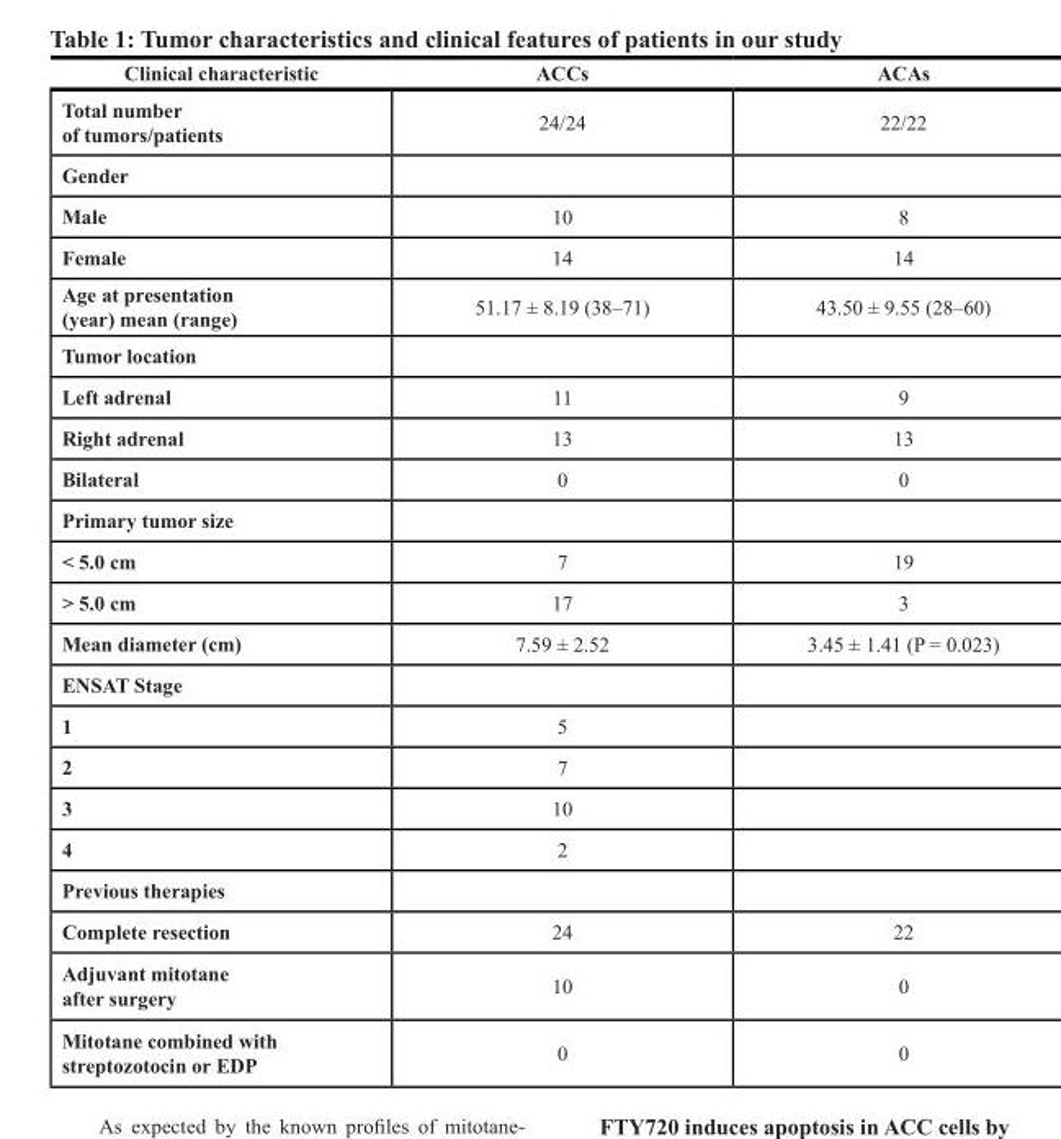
<table><thead><tr><td>Clinical characteristic</td><td>ACCs</td><td>ACAs</td></tr></thead><tbody><tr><td>Total number of tumors/patients</td><td>24/24</td><td>22/22</td></tr><tr><td colspan="3">Gender</td></tr><tr><td>Male</td><td>10</td><td>8</td></tr><tr><td>Female</td><td>14</td><td>14</td></tr><tr><td>Age at presentation (year) mean (range)</td><td>51.17 ± 8.19 (38–71)</td><td>43.50 ± 9.55 (28–60)</td></tr><tr><td colspan="3">Tumor location</td></tr><tr><td>Left adrenal</td><td>11</td><td>9</td></tr><tr><td>Right adrenal</td><td>13</td><td>13</td></tr><tr><td>Bilateral</td><td>0</td><td>0</td></tr><tr><td colspan="3">Primary tumor size</td></tr><tr><td>&lt; 5.0 cm</td><td>7</td><td>19</td></tr><tr><td>&gt; 5.0 cm</td><td>17</td><td>3</td></tr><tr><td>Mean diameter (cm)</td><td>7.59 ± 2.52</td><td>3.45 ± 1.41 (P = 0.023)</td></tr><tr><td colspan="3">ENSAT Stage</td></tr><tr><td>1</td><td>5</td><td></td></tr><tr><td>2</td><td>7</td><td></td></tr><tr><td>3</td><td>10</td><td></td></tr><tr><td>4</td><td>2</td><td></td></tr><tr><td colspan="3">Previous therapies</td></tr><tr><td>Complete resection</td><td>24</td><td>22</td></tr><tr><td>Adjuvant mitotane after surgery</td><td>10</td><td>0</td></tr><tr><td>Mitotane combined with streptozotocin or EDP</td><td>0</td><td>0</td></tr></tbody></table>